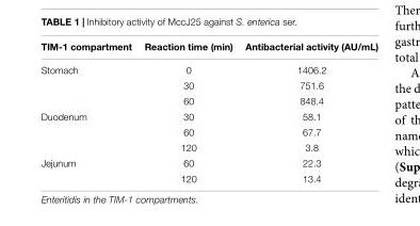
<table><thead><tr><td>TIM-1 compartment</td><td>Reaction time (min)</td><td>Antibacterial activity (AU/mL)</td></tr></thead><tbody><tr><td rowspan="3">Stomach</td><td>0</td><td>1406.2</td></tr><tr><td>30</td><td>751.6</td></tr><tr><td>60</td><td>848.4</td></tr><tr><td rowspan="3">Duodenum</td><td>30</td><td>58.1</td></tr><tr><td>60</td><td>67.7</td></tr><tr><td>120</td><td>3.8</td></tr><tr><td rowspan="2">Jejunum</td><td>60</td><td>22.3</td></tr><tr><td>120</td><td>13.4</td></tr></tbody></table>